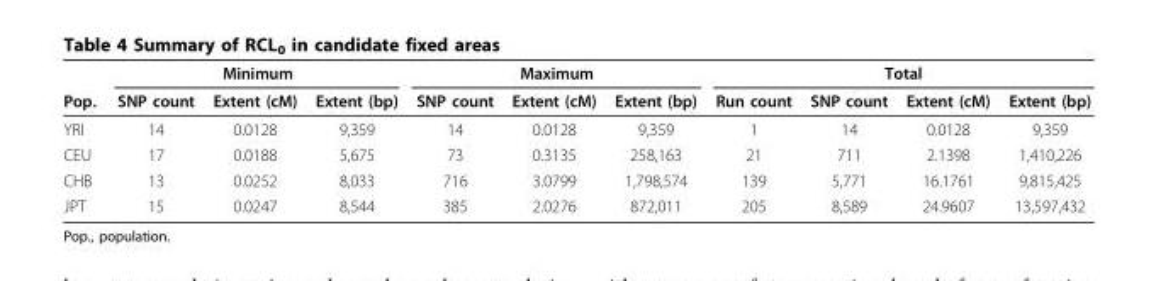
<table><thead><tr><td rowspan="2">Pop.</td><td colspan="3">Minimum</td><td colspan="3">Maximum</td><td colspan="4">Total</td></tr><tr><td>SNP count</td><td>Extent (cM)</td><td>Extent (bp)</td><td>SNP count</td><td>Extent (cM)</td><td>Extent (bp)</td><td>Run count</td><td>SNP count</td><td>Extent (cM)</td><td>Extent (bp)</td></tr></thead><tbody><tr><td>YRI</td><td>14</td><td>0.0128</td><td>9,359</td><td>14</td><td>0.0128</td><td>9,359</td><td>1</td><td>14</td><td>0.0128</td><td>9,359</td></tr><tr><td>CEU</td><td>17</td><td>0.0188</td><td>5,675</td><td>73</td><td>0.3135</td><td>258,163</td><td>21</td><td>711</td><td>2.1398</td><td>1,410,226</td></tr><tr><td>CHB</td><td>13</td><td>0.0252</td><td>8,033</td><td>716</td><td>3.0799</td><td>1,798,574</td><td>139</td><td>5,771</td><td>16.1761</td><td>9,815,425</td></tr><tr><td>JPT</td><td>15</td><td>0.0247</td><td>8,544</td><td>385</td><td>2.0276</td><td>872,011</td><td>205</td><td>8,589</td><td>24.9607</td><td>13,597,432</td></tr></tbody></table>